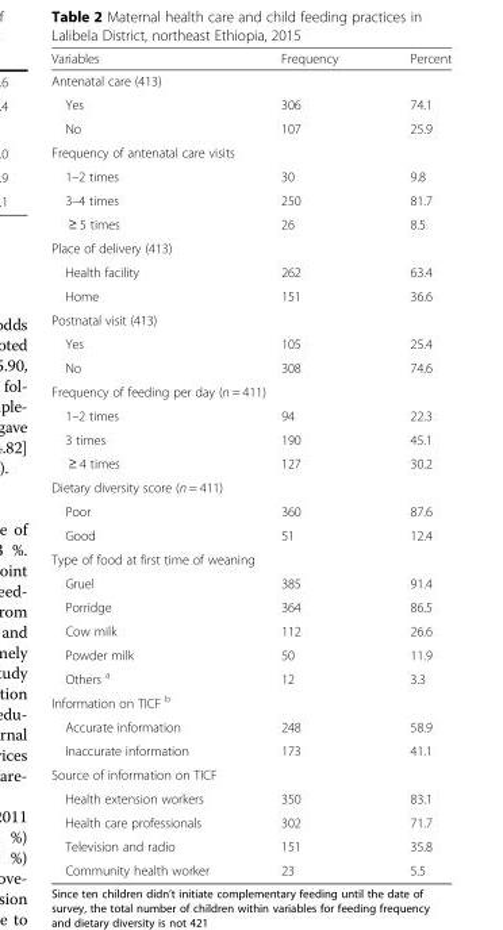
<table><thead><tr><td>Variables</td><td>Frequency</td><td>Percent</td></tr></thead><tbody><tr><td colspan="3">Antenatal care (413)</td></tr><tr><td>Yes</td><td>306</td><td>74.1</td></tr><tr><td>No</td><td>107</td><td>25.9</td></tr><tr><td colspan="3">Frequency of antenatal care visits</td></tr><tr><td>1–2 times</td><td>30</td><td>9.8</td></tr><tr><td>3–4 times</td><td>250</td><td>81.7</td></tr><tr><td>≥ 5 times</td><td>26</td><td>8.5</td></tr><tr><td colspan="3">Place of delivery (413)</td></tr><tr><td>Health facility</td><td>262</td><td>63.4</td></tr><tr><td>Home</td><td>151</td><td>36.6</td></tr><tr><td colspan="3">Postnatal visit (413)</td></tr><tr><td>Yes</td><td>105</td><td>25.4</td></tr><tr><td>No</td><td>308</td><td>74.6</td></tr><tr><td colspan="3">Frequency of feeding per day (n = 411)</td></tr><tr><td>1–2 times</td><td>94</td><td>22.3</td></tr><tr><td>3 times</td><td>190</td><td>45.1</td></tr><tr><td>≥ 4 times</td><td>127</td><td>30.2</td></tr><tr><td colspan="3">Dietary diversity score (n = 411)</td></tr><tr><td>Poor</td><td>360</td><td>87.6</td></tr><tr><td>Good</td><td>51</td><td>12.4</td></tr><tr><td colspan="3">Type of food at first time of weaning</td></tr><tr><td>Gruel</td><td>385</td><td>91.4</td></tr><tr><td>Porridge</td><td>364</td><td>86.5</td></tr><tr><td>Cow milk</td><td>112</td><td>26.6</td></tr><tr><td>Powder milk</td><td>50</td><td>11.9</td></tr><tr><td>Others <sup>a</sup></td><td>12</td><td>3.3</td></tr><tr><td colspan="3">Information on TICF <sup>b</sup></td></tr><tr><td>Accurate information</td><td>248</td><td>58.9</td></tr><tr><td>Inaccurate information</td><td>173</td><td>41.1</td></tr><tr><td colspan="3">Source of information on TICF</td></tr><tr><td>Health extension workers</td><td>350</td><td>83.1</td></tr><tr><td>Health care professionals</td><td>302</td><td>71.7</td></tr><tr><td>Television and radio</td><td>151</td><td>35.8</td></tr><tr><td>Community health worker</td><td>23</td><td>5.5</td></tr></tbody></table>